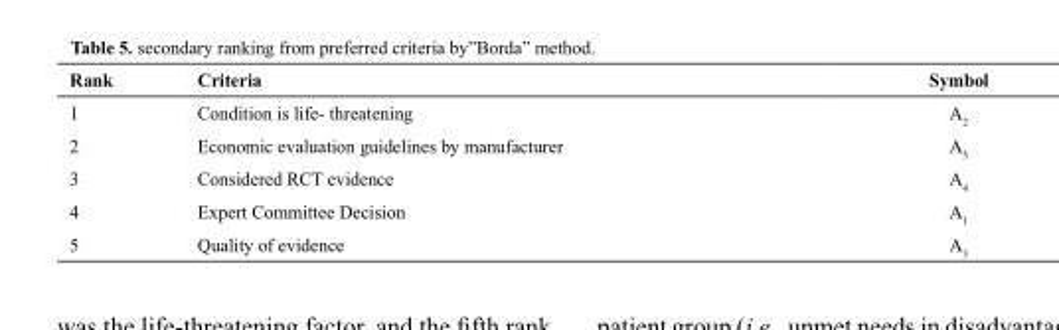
<table><thead><tr><td>Rank</td><td>Criteria</td><td>Symbol</td></tr></thead><tbody><tr><td>1</td><td>Condition is life- threatening</td><td>A<sub>2</sub></td></tr><tr><td>2</td><td>Economic evaluation guidelines by manufacturer</td><td>A<sub>5</sub></td></tr><tr><td>3</td><td>Considered RCT evidence</td><td>A<sub>4</sub></td></tr><tr><td>4</td><td>Expert Committee Decision</td><td>A<sub>1</sub></td></tr><tr><td>5</td><td>Quality of evidence</td><td>A<sub>3</sub></td></tr></tbody></table>